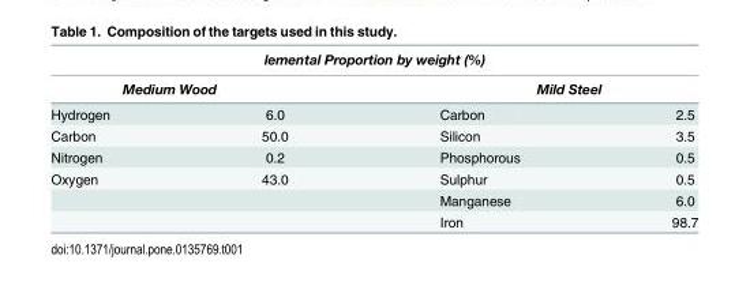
<table><thead><tr><td colspan="4">lemental Proportion by weight (%)</td></tr><tr><td colspan="2">Medium Wood</td><td colspan="2">Mild Steel</td></tr><tr><td>Hydrogen</td><td>6.0</td><td>Carbon</td><td>2.5</td></tr></thead><tbody><tr><td>Carbon</td><td>50.0</td><td>Silicon</td><td>3.5</td></tr><tr><td>Nitrogen</td><td>0.2</td><td>Phosphorous</td><td>0.5</td></tr><tr><td rowspan="3">Oxygen</td><td>43.0</td><td>Sulphur</td><td>0.5</td></tr><tr><td></td><td>Manganese</td><td>6.0</td></tr><tr><td></td><td>Iron</td><td>98.7</td></tr></tbody></table>